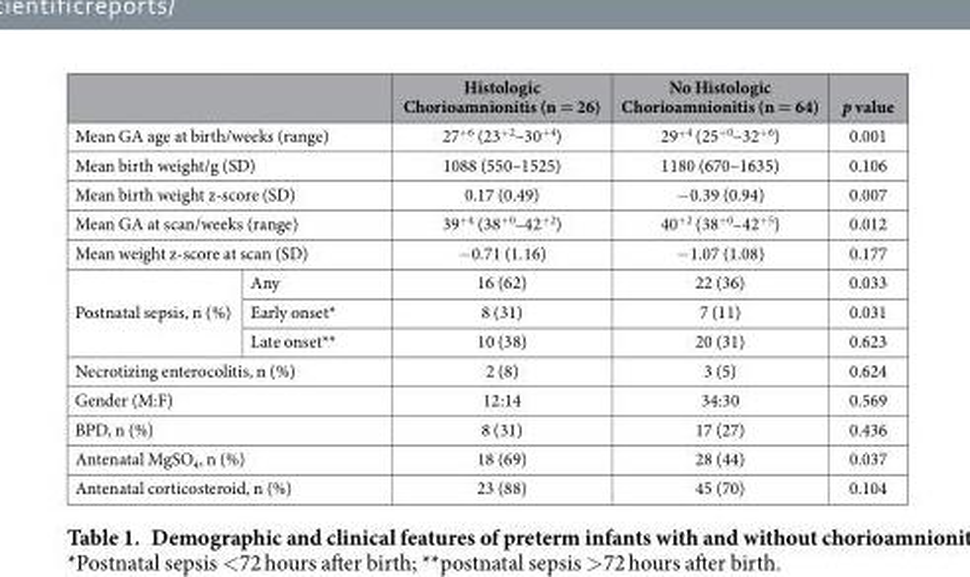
<table><thead><tr><td></td><td></td><td>Histologic Chorioamnionitis (n = 26)</td><td>No Histologic Chorioamnionitis (n = 64)</td><td>p value</td></tr></thead><tbody><tr><td colspan="2">Mean GA age at birth/weeks (range)</td><td>27<sup>+6</sup> (23<sup>+2</sup>–30<sup>+4</sup>)</td><td>29<sup>+4</sup> (25<sup>+0</sup>–32<sup>+6</sup>)</td><td>0.001</td></tr><tr><td colspan="2">Mean birth weight/g (SD)</td><td>1088 (550–1525)</td><td>1180 (670–1635)</td><td>0.106</td></tr><tr><td colspan="2">Mean birth weight z-score (SD)</td><td>0.17 (0.49)</td><td>− 0.39 (0.94)</td><td>0.007</td></tr><tr><td colspan="2">Mean GA at scan/weeks (range)</td><td>39<sup>+4</sup> (38<sup>+0</sup>–42<sup>+2</sup>)</td><td>40<sup>+2</sup> (38<sup>+0</sup>–42<sup>+5</sup>)</td><td>0.012</td></tr><tr><td colspan="2">Mean weight z-score at scan (SD)</td><td>− 0.71 (1.16)</td><td>− 1.07 (1.08)</td><td>0.177</td></tr><tr><td rowspan="3">Postnatal sepsis, n (%)</td><td>Any</td><td>16 (62)</td><td>22 (36)</td><td>0.033</td></tr><tr><td>Early onset*</td><td>8 (31)</td><td>7 (11)</td><td>0.031</td></tr><tr><td>Late onset**</td><td>10 (38)</td><td>20 (31)</td><td>0.623</td></tr><tr><td colspan="2">Necrotizing enterocolitis, n (%)</td><td>2 (8)</td><td>3 (5)</td><td>0.624</td></tr><tr><td colspan="2">Gender (M:F)</td><td>12:14</td><td>34:30</td><td>0.569</td></tr><tr><td colspan="2">BPD, n (%)</td><td>8 (31)</td><td>17 (27)</td><td>0.436</td></tr><tr><td colspan="2">Antenatal MgSO<sub>4</sub>, n (%)</td><td>18 (69)</td><td>28 (44)</td><td>0.037</td></tr><tr><td colspan="2">Antenatal corticosteroid, n (%)</td><td>23 (88)</td><td>45 (70)</td><td>0.104</td></tr></tbody></table>